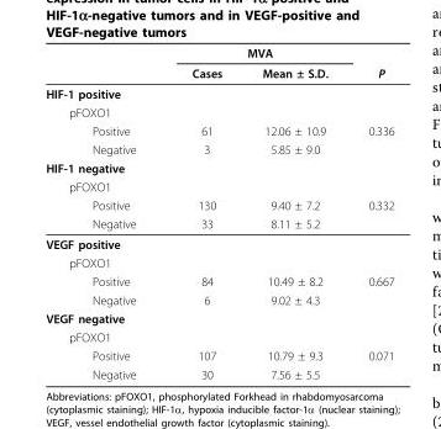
<table><thead><tr><td rowspan="2"></td><td colspan="2">MVA</td><td rowspan="2">P</td></tr><tr><td>Cases</td><td>Mean ± S.D.</td></tr></thead><tbody><tr><td colspan="4">HIF-1 positive</td></tr><tr><td colspan="4">pFOXO1</td></tr><tr><td>Positive</td><td>61</td><td>12.06 ± 10.9</td><td>0.336</td></tr><tr><td>Negative</td><td>3</td><td>5.85 ± 9.0</td><td></td></tr><tr><td colspan="4">HIF-1 negative</td></tr><tr><td colspan="4">pFOXO1</td></tr><tr><td>Positive</td><td>130</td><td>9.40 ± 7.2</td><td>0.332</td></tr><tr><td>Negative</td><td>33</td><td>8.11 ± 5.2</td><td></td></tr><tr><td colspan="4">VEGF positive</td></tr><tr><td colspan="4">pFOXO1</td></tr><tr><td>Positive</td><td>84</td><td>10.49 ± 8.2</td><td>0.667</td></tr><tr><td>Negative</td><td>6</td><td>9.02 ± 4.3</td><td></td></tr><tr><td colspan="4">VEGF negative</td></tr><tr><td colspan="4">pFOXO1</td></tr><tr><td>Positive</td><td>107</td><td>10.79 ± 9.3</td><td>0.071</td></tr><tr><td>Negative</td><td>30</td><td>7.56 ± 5.5</td><td></td></tr></tbody></table>